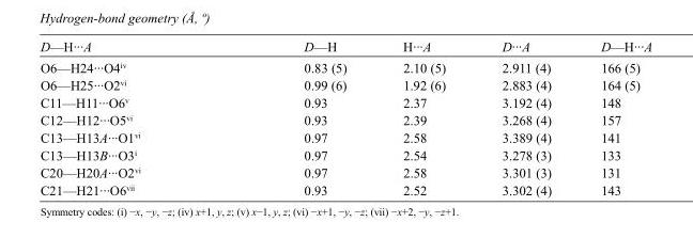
<table><tbody><tr><td>D—H···A</td><td>D—H</td><td>H···A</td><td>D···A</td><td>D—H···A</td></tr><tr><td>O6—H24···O4<sup>iv</sup></td><td>0.83 (5)</td><td>2.10 (5)</td><td>2.911 (4)</td><td>166 (5)</td></tr><tr><td>O6—H25···O2<sup>vi</sup></td><td>0.99 (6)</td><td>1.92 (6)</td><td>2.883 (4)</td><td>164 (5)</td></tr><tr><td>C11—H11···O6<sup>v</sup></td><td>0.93</td><td>2.37</td><td>3.192 (4)</td><td>148</td></tr><tr><td>C12—H12···O5<sup>vi</sup></td><td>0.93</td><td>2.39</td><td>3.268 (4)</td><td>157</td></tr><tr><td>C13—H13A···O1<sup>vi</sup></td><td>0.97</td><td>2.58</td><td>3.389 (4)</td><td>141</td></tr><tr><td>C13—H13B···O3<sup>i</sup></td><td>0.97</td><td>2.54</td><td>3.278 (3)</td><td>133</td></tr><tr><td>C20—H20A···O2<sup>vi</sup></td><td>0.97</td><td>2.58</td><td>3.301 (3)</td><td>131</td></tr><tr><td>C21—H21···O6<sup>vii</sup></td><td>0.93</td><td>2.52</td><td>3.302 (4)</td><td>143</td></tr></tbody></table>